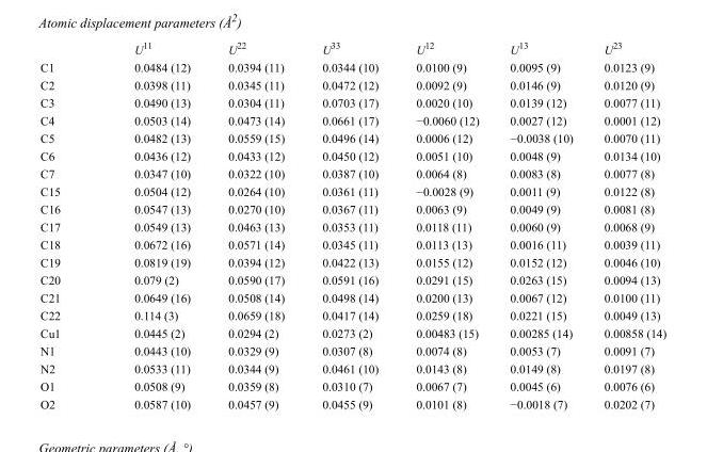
<table><thead><tr><td></td><td>U<sup>11</sup></td><td>U<sup>22</sup></td><td>U<sup>33</sup></td><td>U<sup>12</sup></td><td>U<sup>13</sup></td><td>U<sup>23</sup></td></tr></thead><tbody><tr><td>C1</td><td>0.0484 (12)</td><td>0.0394 (11)</td><td>0.0344 (10)</td><td>0.0100 (9)</td><td>0.0095 (9)</td><td>0.0123 (9)</td></tr><tr><td>C2</td><td>0.0398 (11)</td><td>0.0345 (11)</td><td>0.0472 (12)</td><td>0.0092 (9)</td><td>0.0146 (9)</td><td>0.0120 (9)</td></tr><tr><td>C3</td><td>0.0490 (13)</td><td>0.0304 (11)</td><td>0.0703 (17)</td><td>0.0020 (10)</td><td>0.0139 (12)</td><td>0.0077 (11)</td></tr><tr><td>C4</td><td>0.0503 (14)</td><td>0.0473 (14)</td><td>0.0661 (17)</td><td>−0.0060 (12)</td><td>0.0027 (12)</td><td>0.0001 (12)</td></tr><tr><td>C5</td><td>0.0482 (13)</td><td>0.0559 (15)</td><td>0.0496 (14)</td><td>0.0006 (12)</td><td>−0.0038 (10)</td><td>0.0070 (11)</td></tr><tr><td>C6</td><td>0.0436 (12)</td><td>0.0433 (12)</td><td>0.0450 (12)</td><td>0.0051 (10)</td><td>0.0048 (9)</td><td>0.0134 (10)</td></tr><tr><td>C7</td><td>0.0347 (10)</td><td>0.0322 (10)</td><td>0.0387 (10)</td><td>0.0064 (8)</td><td>0.0083 (8)</td><td>0.0077 (8)</td></tr><tr><td>C15</td><td>0.0504 (12)</td><td>0.0264 (10)</td><td>0.0361 (11)</td><td>−0.0028 (9)</td><td>0.0011 (9)</td><td>0.0122 (8)</td></tr><tr><td>C16</td><td>0.0547 (13)</td><td>0.0270 (10)</td><td>0.0367 (11)</td><td>0.0063 (9)</td><td>0.0049 (9)</td><td>0.0081 (8)</td></tr><tr><td>C17</td><td>0.0549 (13)</td><td>0.0463 (13)</td><td>0.0353 (11)</td><td>0.0118 (11)</td><td>0.0060 (9)</td><td>0.0068 (9)</td></tr><tr><td>C18</td><td>0.0672 (16)</td><td>0.0571 (14)</td><td>0.0345 (11)</td><td>0.0113 (13)</td><td>0.0016 (11)</td><td>0.0039 (11)</td></tr><tr><td>C19</td><td>0.0819 (19)</td><td>0.0394 (12)</td><td>0.0422 (13)</td><td>0.0155 (12)</td><td>0.0152 (12)</td><td>0.0046 (10)</td></tr><tr><td>C20</td><td>0.079 (2)</td><td>0.0590 (17)</td><td>0.0591 (16)</td><td>0.0291 (15)</td><td>0.0263 (15)</td><td>0.0094 (13)</td></tr><tr><td>C21</td><td>0.0649 (16)</td><td>0.0508 (14)</td><td>0.0498 (14)</td><td>0.0200 (13)</td><td>0.0067 (12)</td><td>0.0100 (11)</td></tr><tr><td>C22</td><td>0.114 (3)</td><td>0.0659 (18)</td><td>0.0417 (14)</td><td>0.0259 (18)</td><td>0.0221 (15)</td><td>0.0049 (13)</td></tr><tr><td>Cu1</td><td>0.0445 (2)</td><td>0.0294 (2)</td><td>0.0273 (2)</td><td>0.00483 (15)</td><td>0.00285 (14)</td><td>0.00858 (14)</td></tr><tr><td>N1</td><td>0.0443 (10)</td><td>0.0329 (9)</td><td>0.0307 (8)</td><td>0.0074 (8)</td><td>0.0053 (7)</td><td>0.0091 (7)</td></tr><tr><td>N2</td><td>0.0533 (11)</td><td>0.0344 (9)</td><td>0.0461 (10)</td><td>0.0143 (8)</td><td>0.0149 (8)</td><td>0.0197 (8)</td></tr><tr><td>O1</td><td>0.0508 (9)</td><td>0.0359 (8)</td><td>0.0310 (7)</td><td>0.0067 (7)</td><td>0.0045 (6)</td><td>0.0076 (6)</td></tr><tr><td>O2</td><td>0.0587 (10)</td><td>0.0457 (9)</td><td>0.0455 (9)</td><td>0.0101 (8)</td><td>−0.0018 (7)</td><td>0.0202 (7)</td></tr></tbody></table>